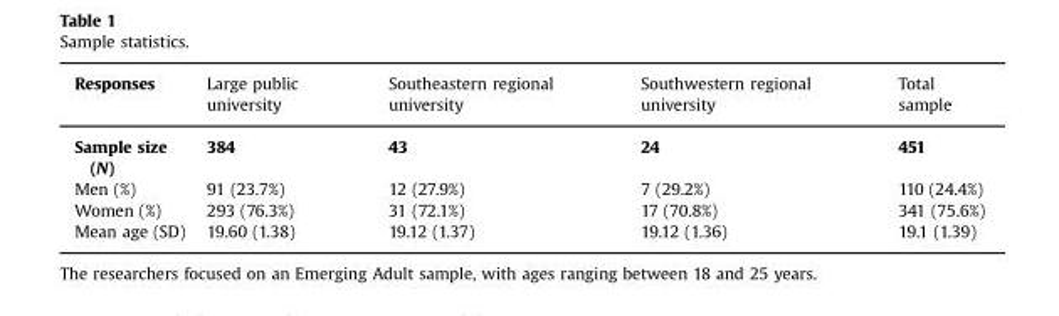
<table><thead><tr><td>Responses</td><td>Large public university</td><td>Southeastern regional university</td><td>Southwestern regional university</td><td>Total sample</td></tr></thead><tbody><tr><td>Sample size (N)</td><td>384</td><td>43</td><td>24</td><td>451</td></tr><tr><td>Men (%)</td><td>91 (23.7%)</td><td>12 (27.9%)</td><td>7 (29.2%)</td><td>110 (24.4%)</td></tr><tr><td>Women (%)</td><td>293 (76.3%)</td><td>31 (72.1%)</td><td>17 (70.8%)</td><td>341 (75.6%)</td></tr><tr><td>Mean age (SD)</td><td>19.60 (1.38)</td><td>19.12 (1.37)</td><td>19.12 (1.36)</td><td>19.1 (1.39)</td></tr></tbody></table>